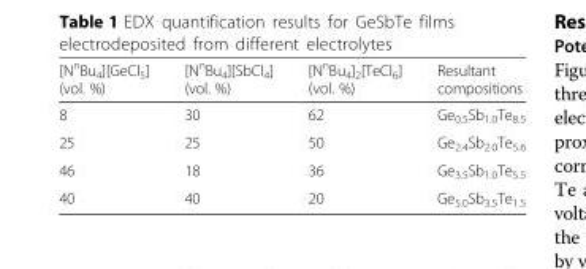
<table><thead><tr><td>[N<sup>n</sup>Bu<sub>4</sub>][GeCl<sub>5</sub>] (vol. %)</td><td>[N<sup>n</sup>Bu<sub>4</sub>][SbCl<sub>4</sub>] (vol. %)</td><td>[N<sup>n</sup>Bu<sub>4</sub>]<sub>2</sub>[TeCl<sub>6</sub>] (vol. %)</td><td>Resultant compositions</td></tr></thead><tbody><tr><td>8</td><td>30</td><td>62</td><td>Ge<sub>0.5</sub>Sb<sub>1.0</sub>Te<sub>8.5</sub></td></tr><tr><td>25</td><td>25</td><td>50</td><td>Ge<sub>2.4</sub>Sb<sub>2.0</sub>Te<sub>5.6</sub></td></tr><tr><td>46</td><td>18</td><td>36</td><td>Ge<sub>3.5</sub>Sb<sub>1.0</sub>Te<sub>5.5</sub></td></tr><tr><td>40</td><td>40</td><td>20</td><td>Ge<sub>5.0</sub>Sb<sub>3.5</sub>Te<sub>1.5</sub></td></tr></tbody></table>